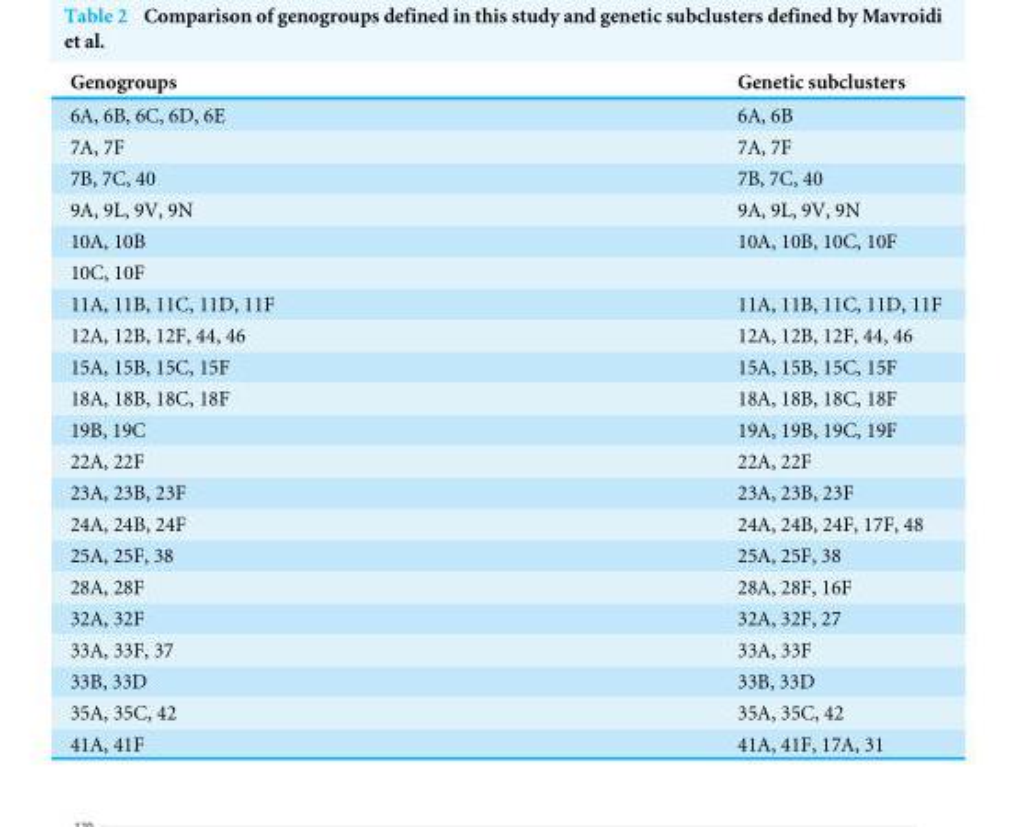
<table><thead><tr><td>Genogroups</td><td>Genetic subclusters</td></tr></thead><tbody><tr><td>6A, 6B, 6C, 6D, 6E</td><td>6A, 6B</td></tr><tr><td>7A, 7F</td><td>7A, 7F</td></tr><tr><td>7B, 7C, 40</td><td>7B, 7C, 40</td></tr><tr><td>9A, 9L, 9V, 9N</td><td>9A, 9L, 9V, 9N</td></tr><tr><td>10A, 10B</td><td>10A, 10B, 10C, 10F</td></tr><tr><td colspan="2">10C, 10F</td></tr><tr><td>11A, 11B, 11C, 11D, 11F</td><td>11A, 11B, 11C, 11D, 11F</td></tr><tr><td>12A, 12B, 12F, 44, 46</td><td>12A, 12B, 12F, 44, 46</td></tr><tr><td>15A, 15B, 15C, 15F</td><td>15A, 15B, 15C, 15F</td></tr><tr><td>18A, 18B, 18C, 18F</td><td>18A, 18B, 18C, 18F</td></tr><tr><td>19B, 19C</td><td>19A, 19B, 19C, 19F</td></tr><tr><td>22A, 22F</td><td>22A, 22F</td></tr><tr><td>23A, 23B, 23F</td><td>23A, 23B, 23F</td></tr><tr><td>24A, 24B, 24F</td><td>24A, 24B, 24F, 17F, 48</td></tr><tr><td>25A, 25F, 38</td><td>25A, 25F, 38</td></tr><tr><td>28A, 28F</td><td>28A, 28F, 16F</td></tr><tr><td>32A, 32F</td><td>32A, 32F, 27</td></tr><tr><td>33A, 33F, 37</td><td>33A, 33F</td></tr><tr><td>33B, 33D</td><td>33B, 33D</td></tr><tr><td>35A, 35C, 42</td><td>35A, 35C, 42</td></tr><tr><td>41A, 41F</td><td>41A, 41F, 17A, 31</td></tr></tbody></table>